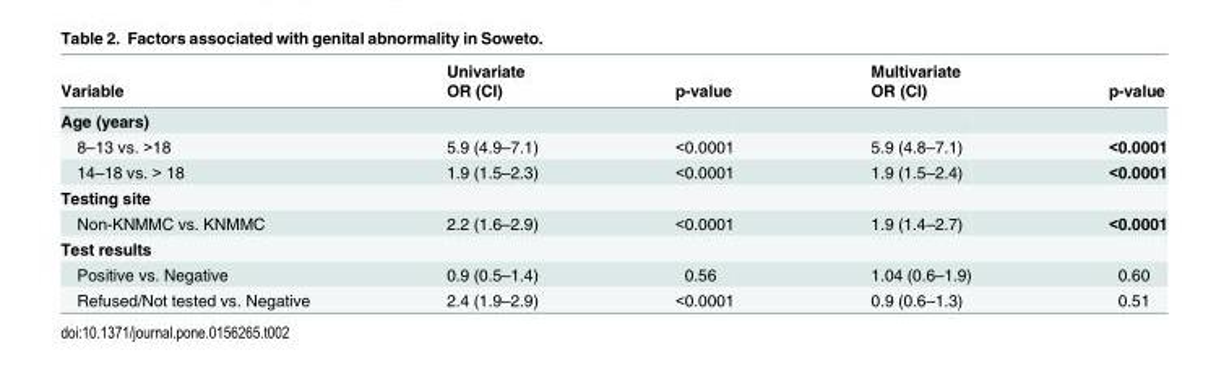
<table><thead><tr><td rowspan="2">Variable</td><td rowspan="2">Univariate OR (CI)</td><td rowspan="2">p-value</td><td rowspan="2">Multivariate OR (CI)</td><td rowspan="2">p-value</td></tr><tr></tr></thead><tbody><tr><td colspan="5">Age (years)</td></tr><tr><td>8–13 vs. &gt;18</td><td>5.9 (4.9–7.1)</td><td>&lt;0.0001</td><td>5.9 (4.8–7.1)</td><td>&lt;0.0001</td></tr><tr><td>14–18 vs. &gt; 18</td><td>1.9 (1.5–2.3)</td><td>&lt;0.0001</td><td>1.9 (1.5–2.4)</td><td>&lt;0.0001</td></tr><tr><td colspan="5">Testing site</td></tr><tr><td>Non-KNMMC vs. KNMMC</td><td>2.2 (1.6–2.9)</td><td>&lt;0.0001</td><td>1.9 (1.4–2.7)</td><td>&lt;0.0001</td></tr><tr><td colspan="5">Test results</td></tr><tr><td>Positive vs. Negative</td><td>0.9 (0.5–1.4)</td><td>0.56</td><td>1.04 (0.6–1.9)</td><td>0.60</td></tr><tr><td>Refused/Not tested vs. Negative</td><td>2.4 (1.9–2.9)</td><td>&lt;0.0001</td><td>0.9 (0.6–1.3)</td><td>0.51</td></tr></tbody></table>